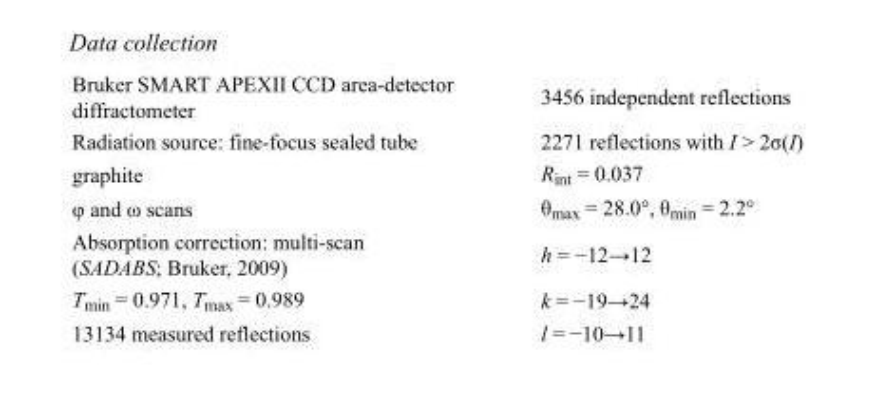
<table><tbody><tr><td>Bruker SMART APEXII CCD area-detector diffractometer</td><td>3456 independent reflections</td></tr><tr><td>Radiation source: fine-focus sealed tube</td><td>2271 reflections with I &gt; 2σ(I)</td></tr><tr><td>graphite</td><td>R<sub>int</sub> = 0.037</td></tr><tr><td>φ and ω scans</td><td>θ<sub>max</sub> = 28.0°, θ<sub>min</sub> = 2.2°</td></tr><tr><td>Absorption correction: multi-scan (SADABS; Bruker, 2009)</td><td>h = −12→12</td></tr><tr><td>T<sub>min</sub> = 0.971, T<sub>max</sub> = 0.989</td><td>k = −19→24</td></tr><tr><td>13134 measured reflections</td><td>l = −10→11</td></tr></tbody></table>